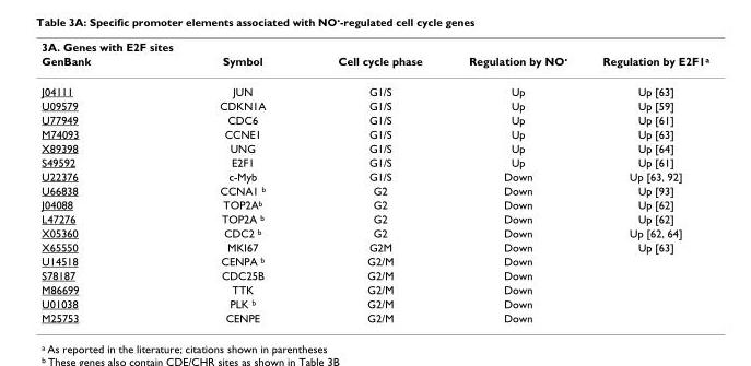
<table><thead><tr><td colspan="5">3A. Genes with E2F sites</td></tr><tr><td>GenBank</td><td>Symbol</td><td>Cell cycle phase</td><td>Regulation by NO<sup>•</sup></td><td>Regulation by E2F1<sup>a</sup></td></tr></thead><tbody><tr><td>J04111</td><td>JUN</td><td>G1/S</td><td>Up</td><td>Up [63]</td></tr><tr><td>U09579</td><td>CDKN1A</td><td>G1/S</td><td>Up</td><td>Up [59]</td></tr><tr><td>U77949</td><td>CDC6</td><td>G1/S</td><td>Up</td><td>Up [61]</td></tr><tr><td>M74093</td><td>CCNE1</td><td>G1/S</td><td>Up</td><td>Up [63]</td></tr><tr><td>X89398</td><td>UNG</td><td>G1/S</td><td>Up</td><td>Up [64]</td></tr><tr><td>S49592</td><td>E2F1</td><td>G1/S</td><td>Up</td><td>Up [61]</td></tr><tr><td>U22376</td><td>c-Myb</td><td>G1/S</td><td>Down</td><td>Up [63, 92]</td></tr><tr><td>U66838</td><td>CCNA1 <sup>b</sup></td><td>G2</td><td>Down</td><td>Up [93]</td></tr><tr><td>J04088</td><td>TOP2A<sup>b</sup></td><td>G2</td><td>Down</td><td>Up [62]</td></tr><tr><td>L47276</td><td>TOP2A <sup>b</sup></td><td>G2</td><td>Down</td><td>Up [62]</td></tr><tr><td>X05360</td><td>CDC2 <sup>b</sup></td><td>G2</td><td>Down</td><td>Up [62, 64]</td></tr><tr><td>X65550</td><td>MKI67</td><td>G2M</td><td>Down</td><td>Up [63]</td></tr><tr><td>U14518</td><td>CENPA <sup>b</sup></td><td>G2/M</td><td>Down</td><td></td></tr><tr><td>S78187</td><td>CDC25B</td><td>G2/M</td><td>Down</td><td></td></tr><tr><td>M86699</td><td>TTK</td><td>G2/M</td><td>Down</td><td></td></tr><tr><td>U01038</td><td>PLK <sup>b</sup></td><td>G2/M</td><td>Down</td><td></td></tr><tr><td>M25753</td><td>CENPE</td><td>G2/M</td><td>Down</td><td></td></tr></tbody></table>